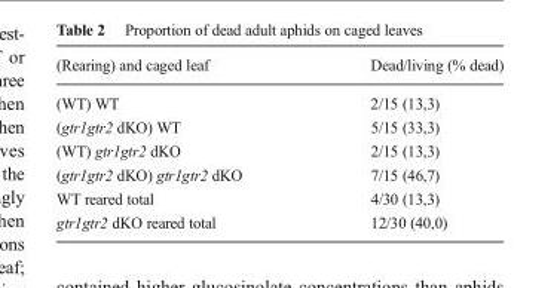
<table><thead><tr><td>(Rearing) and caged leaf</td><td>Dead/living (% dead)</td></tr></thead><tbody><tr><td>(WT) WT</td><td>2/15 (13,3)</td></tr><tr><td>(gtr1gtr2 dKO) WT</td><td>5/15 (33,3)</td></tr><tr><td>(WT) gtr1gtr2 dKO</td><td>2/15 (13,3)</td></tr><tr><td>(gtr1gtr2 dKO) gtr1gtr2 dKO</td><td>7/15 (46,7)</td></tr><tr><td>WT reared total</td><td>4/30 (13,3)</td></tr><tr><td>gtr1gtr2 dKO reared total</td><td>12/30 (40,0)</td></tr></tbody></table>